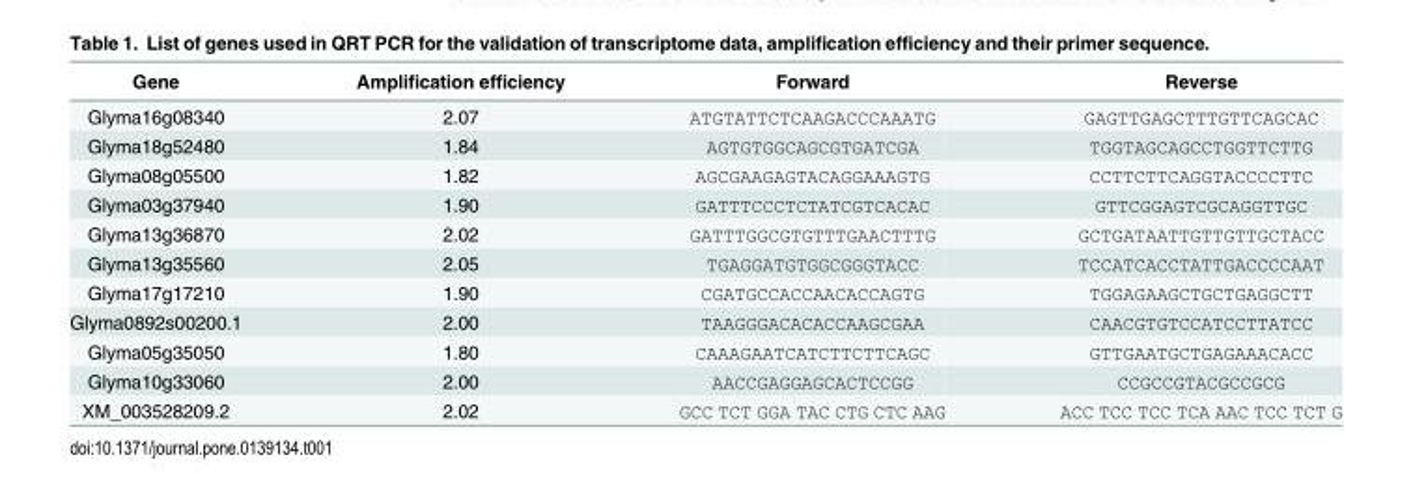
<table><thead><tr><td>Gene</td><td>Amplification efficiency</td><td>Forward</td><td>Reverse</td></tr></thead><tbody><tr><td>Glyma16g08340</td><td>2.07</td><td>ATGTATTCTCAAGACCCAAATG</td><td>GAGTTGAGCTTTGTTCAGCAC</td></tr><tr><td>Glyma18g52480</td><td>1.84</td><td>AGTGTGGCAGCGTGATCGA</td><td>TGGTAGCAGCCTGGTTCTTG</td></tr><tr><td>Glyma08g05500</td><td>1.82</td><td>AGCGAAGAGTACAGGAAAGTG</td><td>CCTTCTTCAGGTACCCCTTC</td></tr><tr><td>Glyma03g37940</td><td>1.90</td><td>GATTTCCCTCTATCGTCACAC</td><td>GTTCGGAGTCGCAGGTTGC</td></tr><tr><td>Glyma13g36870</td><td>2.02</td><td>GATTTGGCGTGTTTGAACTTTG</td><td>GCTGATAATTGTTGTTGCTACC</td></tr><tr><td>Glyma13g35560</td><td>2.05</td><td>TGAGGATGTGGCGGGTACC</td><td>TCCATCACCTATTGACCCCAAT</td></tr><tr><td>Glyma17g17210</td><td>1.90</td><td>CGATGCCACCAACACCAGTG</td><td>TGGAGAAGCTGCTGAGGCTT</td></tr><tr><td>Glyma0892s00200.1</td><td>2.00</td><td>TAAGGGACACACCAAGCGAA</td><td>CAACGTGTCCATCCTTATCC</td></tr><tr><td>Glyma05g35050</td><td>1.80</td><td>CAAAGAATCATCTTCTTCAGC</td><td>GTTGAATGCTGAGAAACACC</td></tr><tr><td>Glyma10g33060</td><td>2.00</td><td>AACCGAGGAGCACTCCGG</td><td>CCGCCGTACGCCGCG</td></tr><tr><td>XM_003528209.2</td><td>2.02</td><td>GCC TCT GGA TAC CTG CTC AAG</td><td>ACC TCC TCC TCA AAC TCC TCT G</td></tr></tbody></table>